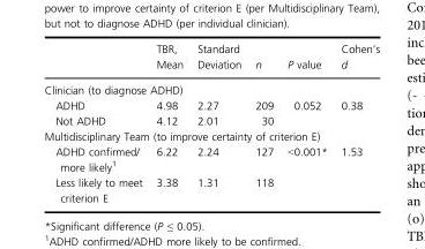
<table><thead><tr><td></td><td>TBR, Mean</td><td>Standard Deviation</td><td>n</td><td>P value</td><td>Cohen’s d</td></tr></thead><tbody><tr><td colspan="6">Clinician (to diagnose ADHD)</td></tr><tr><td>ADHD</td><td>4.98</td><td>2.27</td><td>209</td><td rowspan="2">0.052</td><td rowspan="2">0.38</td></tr><tr><td>Not ADHD</td><td>4.12</td><td>2.01</td><td>30</td></tr><tr><td colspan="6">Multidisciplinary Team (to improve certainty of criterion E)</td></tr><tr><td>ADHD confirmed/ more likely<sup>1</sup></td><td>6.22</td><td>2.24</td><td>127</td><td rowspan="2">&lt;0.001*</td><td rowspan="2">1.53</td></tr><tr><td>Less likely to meet criterion E</td><td>3.38</td><td>1.31</td><td>118</td></tr></tbody></table>